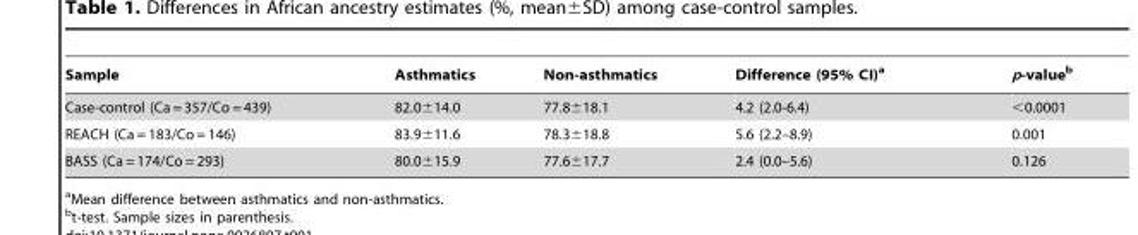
<table><thead><tr><td>Sample</td><td>Asthmatics</td><td>Non-asthmatics</td><td>Difference (95% CI)<sup>a</sup></td><td>p-value<sup>b</sup></td></tr></thead><tbody><tr><td>Case-control (Ca = 357/Co = 439)</td><td>82.0±14.0</td><td>77.8±18.1</td><td>4.2 (2.0-6.4)</td><td>&lt;0.0001</td></tr><tr><td>REACH (Ca = 183/Co = 146)</td><td>83.9±11.6</td><td>78.3±18.8</td><td>5.6 (2.2–8.9)</td><td>0.001</td></tr><tr><td>BASS (Ca = 174/Co = 293)</td><td>80.0±15.9</td><td>77.6±17.7</td><td>2.4 (0.0–5.6)</td><td>0.126</td></tr></tbody></table>